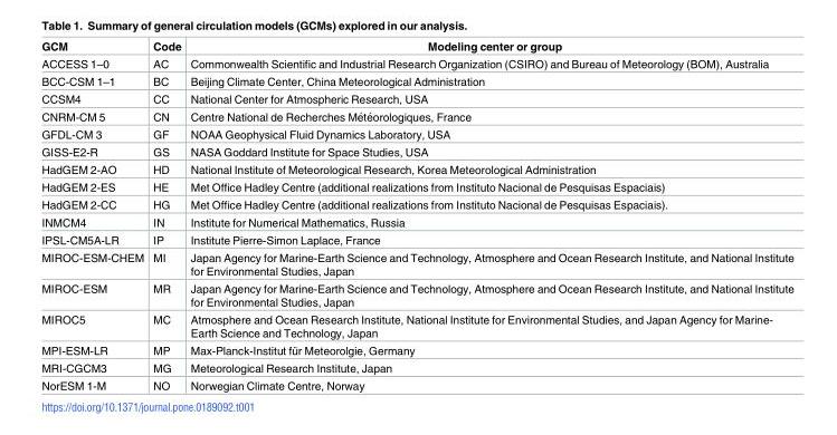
<table><thead><tr><td>GCM</td><td>Code</td><td>Modeling center or group</td></tr></thead><tbody><tr><td>ACCESS 1–0</td><td>AC</td><td>Commonwealth Scientific and Industrial Research Organization (CSIRO) and Bureau of Meteorology (BOM), Australia</td></tr><tr><td>BCC-CSM 1–1</td><td>BC</td><td>Beijing Climate Center, China Meteorological Administration</td></tr><tr><td>CCSM4</td><td>CC</td><td>National Center for Atmospheric Research, USA</td></tr><tr><td>CNRM-CM 5</td><td>CN</td><td>Centre National de Recherches Me´te´orologiques, France</td></tr><tr><td>GFDL-CM 3</td><td>GF</td><td>NOAA Geophysical Fluid Dynamics Laboratory, USA</td></tr><tr><td>GISS-E2-R</td><td>GS</td><td>NASA Goddard Institute for Space Studies, USA</td></tr><tr><td>HadGEM 2-AO</td><td>HD</td><td>National Institute of Meteorological Research, Korea Meteorological Administration</td></tr><tr><td>HadGEM 2-ES</td><td>HE</td><td>Met Office Hadley Centre (additional realizations from Instituto Nacional de Pesquisas Espaciais)</td></tr><tr><td>HadGEM 2-CC</td><td>HG</td><td>Met Office Hadley Centre (additional realizations from Instituto Nacional de Pesquisas Espaciais).</td></tr><tr><td>INMCM4</td><td>IN</td><td>Institute for Numerical Mathematics, Russia</td></tr><tr><td>IPSL-CM5A-LR</td><td>IP</td><td>Institute Pierre-Simon Laplace, France</td></tr><tr><td>MIROC-ESM-CHEM</td><td>MI</td><td>Japan Agency for Marine-Earth Science and Technology, Atmosphere and Ocean Research Institute, and National Institute for Environmental Studies, Japan</td></tr><tr><td>MIROC-ESM</td><td>MR</td><td>Japan Agency for Marine-Earth Science and Technology, Atmosphere and Ocean Research Institute, and National Institute for Environmental Studies, Japan</td></tr><tr><td>MIROC5</td><td>MC</td><td>Atmosphere and Ocean Research Institute, National Institute for Environmental Studies, and Japan Agency for Marine- Earth Science and Technology, Japan</td></tr><tr><td>MPI-ESM-LR</td><td>MP</td><td>Max-Planck-Institut fu¨r Meteorolgie, Germany</td></tr><tr><td>MRI-CGCM3</td><td>MG</td><td>Meteorological Research Institute, Japan</td></tr><tr><td>NorESM 1-M</td><td>NO</td><td>Norwegian Climate Centre, Norway</td></tr></tbody></table>